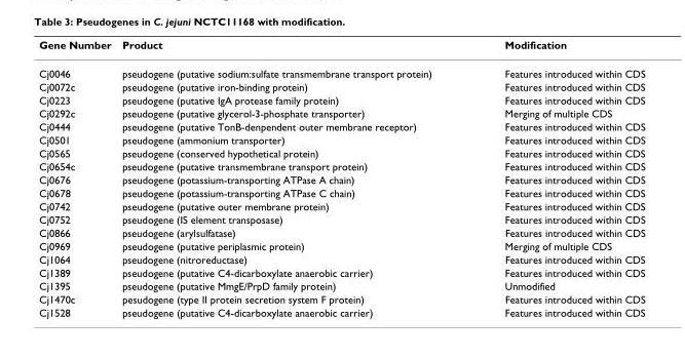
<table><thead><tr><td>Gene Number</td><td>Product</td><td>Modification</td></tr></thead><tbody><tr><td>Cj0046</td><td>pseudogene (putative sodium:sulfate transmembrane transport protein)</td><td>Features introduced within CDS</td></tr><tr><td>Cj0072c</td><td>pseudogene (putative iron-binding protein)</td><td>Features introduced within CDS</td></tr><tr><td>Cj0223</td><td>pseudogene (putative IgA protease family protein)</td><td>Features introduced within CDS</td></tr><tr><td>Cj0292c</td><td>pseudogene (putative glycerol-3-phosphate transporter)</td><td>Merging of multiple CDS</td></tr><tr><td>Cj0444</td><td>pseudogene (putative TonB-denpendent outer membrane receptor)</td><td>Features introduced within CDS</td></tr><tr><td>Cj0501</td><td>pseudogene (ammonium transporter)</td><td>Features introduced within CDS</td></tr><tr><td>Cj0565</td><td>pseudogene (conserved hypothetical protein)</td><td>Features introduced within CDS</td></tr><tr><td>Cj0654c</td><td>pseudogene (putative transmembrane transport protein)</td><td>Features introduced within CDS</td></tr><tr><td>Cj0676</td><td>pseudogene (potassium-transporting ATPase A chain)</td><td>Features introduced within CDS</td></tr><tr><td>Cj0678</td><td>pseudogene (potassium-transporting ATPase C chain)</td><td>Features introduced within CDS</td></tr><tr><td>Cj0742</td><td>pseudogene (putative outer membrane protein)</td><td>Features introduced within CDS</td></tr><tr><td>Cj0752</td><td>pseudogene (IS element transposase)</td><td>Features introduced within CDS</td></tr><tr><td>Cj0866</td><td>pseudogene (arylsulfatase)</td><td>Features introduced within CDS</td></tr><tr><td>Cj0969</td><td>pseudogene (putative periplasmic protein)</td><td>Merging of multiple CDS</td></tr><tr><td>Cj1064</td><td>pseudogene (nitroreductase)</td><td>Features introduced within CDS</td></tr><tr><td>Cj1389</td><td>pseudogene (putative C4-dicarboxylate anaerobic carrier)</td><td>Features introduced within CDS</td></tr><tr><td>Cj1395</td><td>pseudogene (putative MmgE/PrpD family protein)</td><td>Unmodified</td></tr><tr><td>Cj1470c</td><td>pesudogene (type II protein secretion system F protein)</td><td>Features introduced within CDS</td></tr><tr><td>Cj1528</td><td>pseudogene (putative C4-dicarboxylate anaerobic carrier)</td><td>Features introduced within CDS</td></tr></tbody></table>